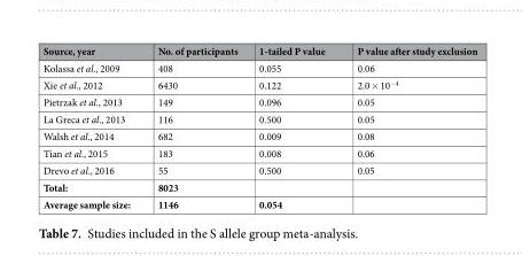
<table><thead><tr><td>Source, year</td><td>No. of participants</td><td>1-tailed P value</td><td>P value after study exclusion</td></tr></thead><tbody><tr><td>Kolassa et al., 2009</td><td>408</td><td>0.055</td><td>0.06</td></tr><tr><td>Xie et al., 2012</td><td>6430</td><td>0.122</td><td>2.0 × 10<sup>−4</sup></td></tr><tr><td>Pietrzak et al., 2013</td><td>149</td><td>0.096</td><td>0.05</td></tr><tr><td>La Greca et al., 2013</td><td>116</td><td>0.500</td><td>0.05</td></tr><tr><td>Walsh et al., 2014</td><td>682</td><td>0.009</td><td>0.08</td></tr><tr><td>Tian et al., 2015</td><td>183</td><td>0.008</td><td>0.06</td></tr><tr><td>Drevo et al., 2016</td><td>55</td><td>0.500</td><td>0.05</td></tr><tr><td>Total:</td><td>8023</td><td></td><td></td></tr><tr><td>Average sample size:</td><td>1146</td><td>0.054</td><td></td></tr></tbody></table>